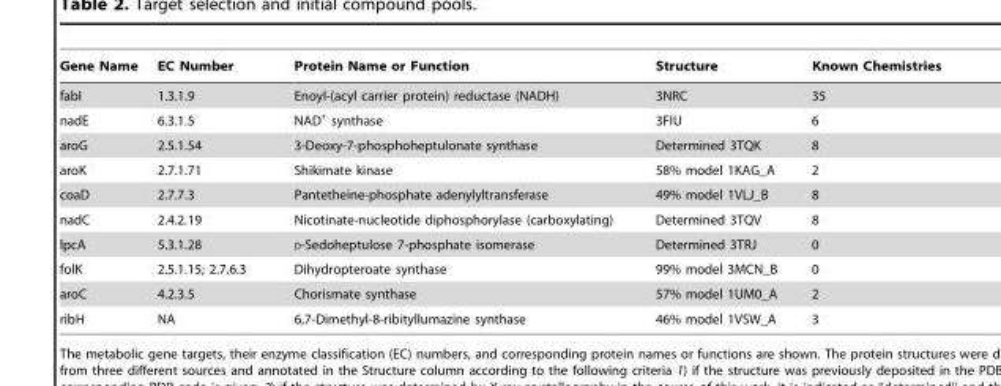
<table><thead><tr><td>Gene Name</td><td>EC Number</td><td>Protein Name or Function</td><td>Structure</td><td>Known Chemistries</td></tr></thead><tbody><tr><td>fabI</td><td>1.3.1.9</td><td>Enoyl-(acyl carrier protein) reductase (NADH)</td><td>3NRC</td><td>35</td></tr><tr><td>nadE</td><td>6.3.1.5</td><td>NAD<sup>+</sup> synthase</td><td>3FIU</td><td>6</td></tr><tr><td>aroG</td><td>2.5.1.54</td><td>3-Deoxy-7-phosphoheptulonate synthase</td><td>Determined 3TQK</td><td>8</td></tr><tr><td>aroK</td><td>2.7.1.71</td><td>Shikimate kinase</td><td>58% model 1KAG_A</td><td>2</td></tr><tr><td>coaD</td><td>2.7.7.3</td><td>Pantetheine-phosphate adenylyltransferase</td><td>49% model 1VLJ_B</td><td>8</td></tr><tr><td>nadC</td><td>2.4.2.19</td><td>Nicotinate-nucleotide diphosphorylase (carboxylating)</td><td>Determined 3TQV</td><td>8</td></tr><tr><td>lpcA</td><td>5.3.1.28</td><td>D-Sedoheptulose 7-phosphate isomerase</td><td>Determined 3TRJ</td><td>0</td></tr><tr><td>folK</td><td>2.5.1.15; 2.7.6.3</td><td>Dihydropteroate synthase</td><td>99% model 3MCN_B</td><td>0</td></tr><tr><td>aroC</td><td>4.2.3.5</td><td>Chorismate synthase</td><td>57% model 1UM0_A</td><td>2</td></tr><tr><td>ribH</td><td>NA</td><td>6,7-Dimethyl-8-ribityllumazine synthase</td><td>46% model 1VSW_A</td><td>3</td></tr></tbody></table>